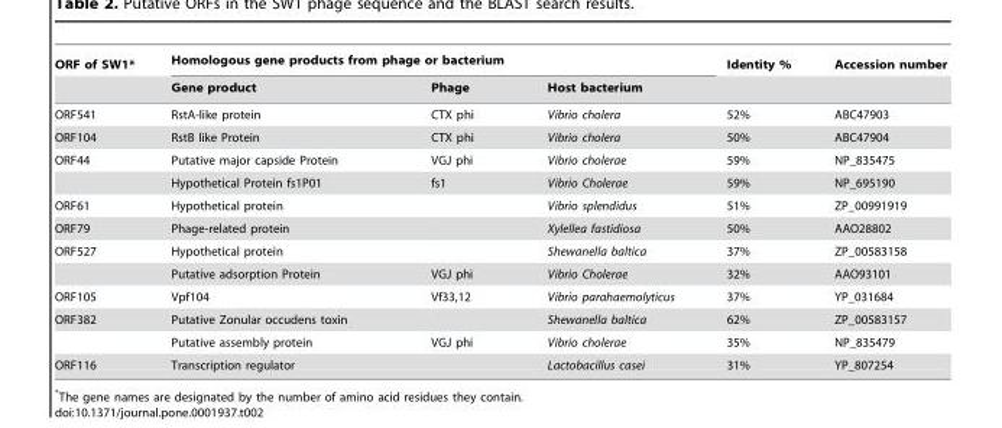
<table><thead><tr><td rowspan="2">ORF of SW1*</td><td colspan="3">Homologous gene products from phage or bacterium</td><td rowspan="2">Identity %</td><td rowspan="2">Accession number</td></tr><tr><td>Gene product</td><td>Phage</td><td>Host bacterium</td></tr></thead><tbody><tr><td>ORF541</td><td>RstA-like protein</td><td>CTX phi</td><td>Vibrio cholera</td><td>52%</td><td>ABC47903</td></tr><tr><td>ORF104</td><td>RstB like Protein</td><td>CTX phi</td><td>Vibrio cholera</td><td>50%</td><td>ABC47904</td></tr><tr><td rowspan="2">ORF44</td><td>Putative major capside Protein</td><td>VGJ phi</td><td>Vibrio cholerae</td><td>59%</td><td>NP_835475</td></tr><tr><td>Hypothetical Protein fs1P01</td><td>fs1</td><td>Vibrio Cholerae</td><td>59%</td><td>NP_695190</td></tr><tr><td>ORF61</td><td>Hypothetical protein</td><td></td><td>Vibrio splendidus</td><td>51%</td><td>ZP_00991919</td></tr><tr><td>ORF79</td><td>Phage-related protein</td><td></td><td>Xylellea fastidiosa</td><td>50%</td><td>AAO28802</td></tr><tr><td rowspan="2">ORF527</td><td>Hypothetical protein</td><td></td><td>Shewanella baltica</td><td>37%</td><td>ZP_00583158</td></tr><tr><td>Putative adsorption Protein</td><td>VGJ phi</td><td>Vibrio Cholerae</td><td>32%</td><td>AAO93101</td></tr><tr><td>ORF105</td><td>Vpf104</td><td>Vf33,12</td><td>Vibrio parahaemolyticus</td><td>37%</td><td>YP_031684</td></tr><tr><td rowspan="2">ORF382</td><td>Putative Zonular occudens toxin</td><td></td><td>Shewanella baltica</td><td>62%</td><td>ZP_00583157</td></tr><tr><td>Putative assembly protein</td><td>VGJ phi</td><td>Vibrio cholerae</td><td>35%</td><td>NP_835479</td></tr><tr><td>ORF116</td><td>Transcription regulator</td><td></td><td>Lactobacillus casei</td><td>31%</td><td>YP_807254</td></tr></tbody></table>